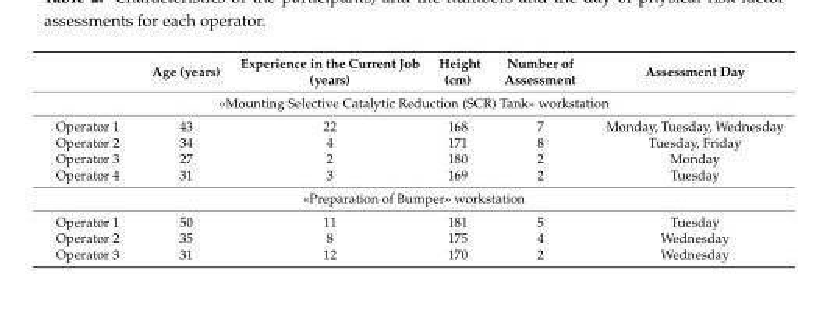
<table><thead><tr><td></td><td>Age (years)</td><td>Experience in the Current Job (years)</td><td>Height (cm)</td><td>Number of Assessment</td><td>Assessment Day</td></tr></thead><tbody><tr><td colspan="6">«Mounting Selective Catalytic Reduction (SCR) Tank» workstation</td></tr><tr><td>Operator 1</td><td>43</td><td>22</td><td>168</td><td>7</td><td>Monday, Tuesday, Wednesday</td></tr><tr><td>Operator 2</td><td>34</td><td>4</td><td>171</td><td>8</td><td>Tuesday, Friday</td></tr><tr><td>Operator 3</td><td>27</td><td>2</td><td>180</td><td>2</td><td>Monday</td></tr><tr><td>Operator 4</td><td>31</td><td>3</td><td>169</td><td>2</td><td>Tuesday</td></tr><tr><td colspan="6">«Preparation of Bumper» workstation</td></tr><tr><td>Operator 1</td><td>50</td><td>11</td><td>181</td><td>5</td><td>Tuesday</td></tr><tr><td>Operator 2</td><td>35</td><td>8</td><td>175</td><td>4</td><td>Wednesday</td></tr><tr><td>Operator 3</td><td>31</td><td>12</td><td>170</td><td>2</td><td>Wednesday</td></tr></tbody></table>